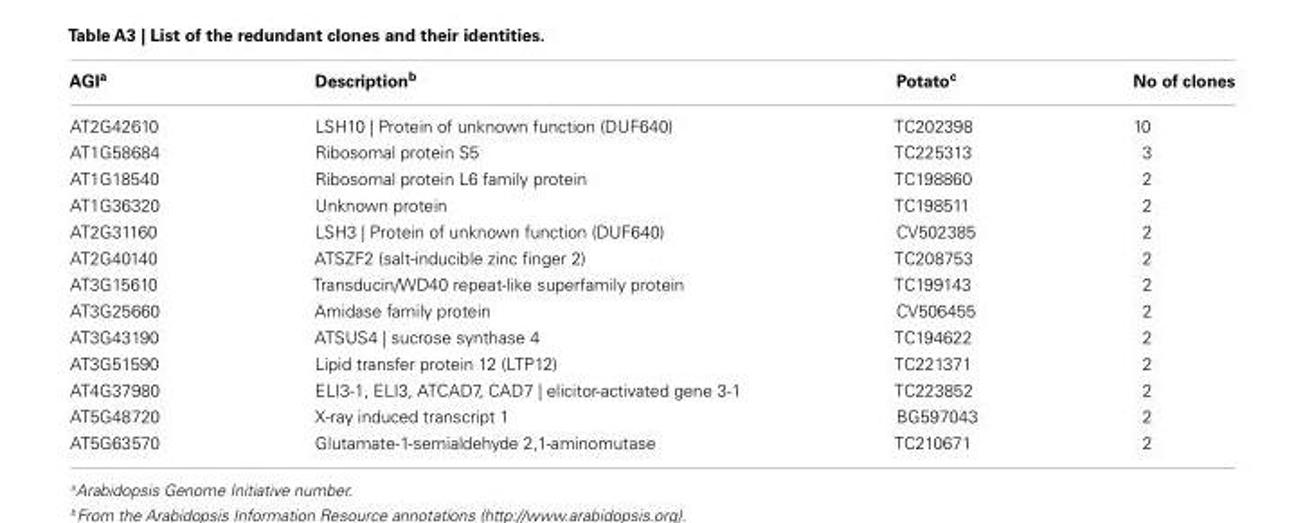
<table><thead><tr><td>AGI<sup>a</sup></td><td>Description<sup>b</sup></td><td>Potato<sup>c</sup></td><td>No of clones</td></tr></thead><tbody><tr><td>AT2G42610</td><td>LSH10 | Protein of unknown function (DUF640)</td><td>TC202398</td><td>10</td></tr><tr><td>AT1G58684</td><td>Ribosomal protein S5</td><td>TC225313</td><td>3</td></tr><tr><td>AT1G18540</td><td>Ribosomal protein L6 family protein</td><td>TC198860</td><td>2</td></tr><tr><td>AT1G36320</td><td>Unknown protein</td><td>TC198511</td><td>2</td></tr><tr><td>AT2G31160</td><td>LSH3 | Protein of unknown function (DUF640)</td><td>CV502385</td><td>2</td></tr><tr><td>AT2G40140</td><td>ATSZF2 (salt-inducible zinc finger 2)</td><td>TC208753</td><td>2</td></tr><tr><td>AT3G15610</td><td>Transducin/WD40 repeat-like superfamily protein</td><td>TC199143</td><td>2</td></tr><tr><td>AT3G25660</td><td>Amidase family protein</td><td>CV506455</td><td>2</td></tr><tr><td>AT3G43190</td><td>ATSUS4 | sucrose synthase 4</td><td>TC194622</td><td>2</td></tr><tr><td>AT3G51590</td><td>Lipid transfer protein 12 (LTP12)</td><td>TC221371</td><td>2</td></tr><tr><td>AT4G37980</td><td>ELI3-1, ELI3, ATCAD7, CAD7 | elicitor-activated gene 3-1</td><td>TC223852</td><td>2</td></tr><tr><td>AT5G48720</td><td>X-ray induced transcript 1</td><td>BG597043</td><td>2</td></tr><tr><td>AT5G63570</td><td>Glutamate-1-semialdehyde 2,1-aminomutase</td><td>TC210671</td><td>2</td></tr></tbody></table>